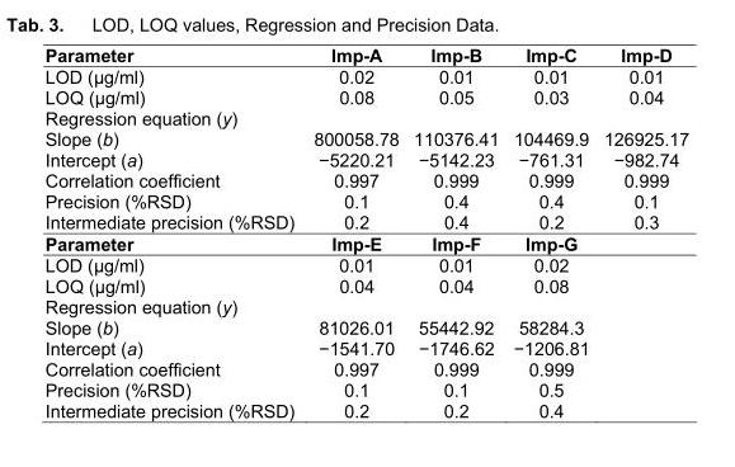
<table><tbody><tr><td>Parameter</td><td>Imp-A</td><td>Imp-B</td><td>Imp-C</td><td>Imp-D</td></tr><tr><td>LOD (μg/ml)</td><td>0.02</td><td>0.01</td><td>0.01</td><td>0.01</td></tr><tr><td>LOQ (μg/ml)</td><td>0.08</td><td>0.05</td><td>0.03</td><td>0.04</td></tr><tr><td colspan="5">Regression equation (y)</td></tr><tr><td>Slope (b)</td><td>800058.78</td><td>110376.41</td><td>104469.9</td><td>126925.17</td></tr><tr><td>Intercept (a)</td><td>−5220.21</td><td>−5142.23</td><td>−761.31</td><td>−982.74</td></tr><tr><td>Correlation coefficient</td><td>0.997</td><td>0.999</td><td>0.999</td><td>0.999</td></tr><tr><td>Precision (%RSD)</td><td>0.1</td><td>0.4</td><td>0.4</td><td>0.1</td></tr><tr><td>Intermediate precision (%RSD)</td><td>0.2</td><td>0.4</td><td>0.2</td><td>0.3</td></tr><tr><td>Parameter</td><td>Imp-E</td><td>Imp-F</td><td>Imp-G</td><td></td></tr><tr><td>LOD (μg/ml)</td><td>0.01</td><td>0.01</td><td>0.02</td><td></td></tr><tr><td>LOQ (μg/ml)</td><td>0.04</td><td>0.04</td><td>0.08</td><td></td></tr><tr><td colspan="5">Regression equation (y)</td></tr><tr><td>Slope (b)</td><td>81026.01</td><td>55442.92</td><td>58284.3</td><td></td></tr><tr><td>Intercept (a)</td><td>−1541.70</td><td>−1746.62</td><td>−1206.81</td><td></td></tr><tr><td>Correlation coefficient</td><td>0.997</td><td>0.999</td><td>0.999</td><td></td></tr><tr><td>Precision (%RSD)</td><td>0.1</td><td>0.1</td><td>0.5</td><td></td></tr><tr><td>Intermediate precision (%RSD)</td><td>0.2</td><td>0.2</td><td>0.4</td><td></td></tr></tbody></table>